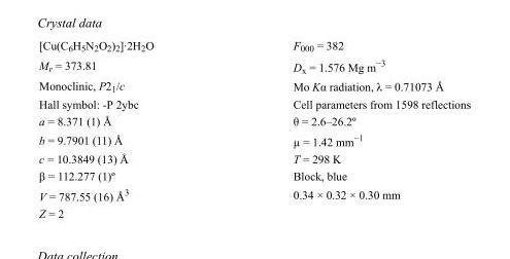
<table><tbody><tr><td>[Cu(C<sub>6</sub>H<sub>5</sub>N<sub>2</sub>O<sub>2</sub>)<sub>2</sub>]·2H<sub>2</sub>O</td><td>F000 = 382</td></tr><tr><td>M<sub>r</sub> = 373.81</td><td>D<sub>x</sub> = 1.576 Mg m<sup>−3</sup></td></tr><tr><td>Monoclinic, P2<sub>1</sub>/c</td><td>Mo Kα radiation, λ = 0.71073 Å</td></tr><tr><td>Hall symbol: -P 2ybc</td><td>Cell parameters from 1598 reflections</td></tr><tr><td>a = 8.371 (1) Å</td><td>θ = 2.6–26.2º</td></tr><tr><td>b = 9.7901 (11) Å</td><td>µ = 1.42 mm<sup>−1</sup></td></tr><tr><td>c = 10.3849 (13) Å</td><td>T = 298 K</td></tr><tr><td>β = 112.277 (1)º</td><td>Block, blue</td></tr><tr><td>V = 787.55 (16) Å<sup>3</sup></td><td>0.34 × 0.32 × 0.30 mm</td></tr><tr><td>Z = 2</td><td></td></tr></tbody></table>